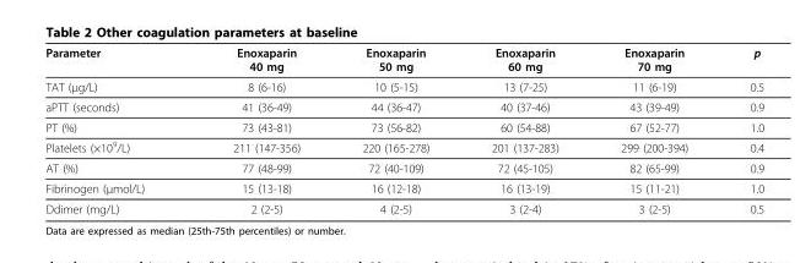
<table><thead><tr><td>Parameter</td><td>Enoxaparin 40 mg</td><td>Enoxaparin 50 mg</td><td>Enoxaparin 60 mg</td><td>Enoxaparin 70 mg</td><td>p</td></tr></thead><tbody><tr><td>TAT (μg/L)</td><td>8 (6-16)</td><td>10 (5-15)</td><td>13 (7-25)</td><td>11 (6-19)</td><td>0.5</td></tr><tr><td>aPTT (seconds)</td><td>41 (36-49)</td><td>44 (36-47)</td><td>40 (37-46)</td><td>43 (39-49)</td><td>0.9</td></tr><tr><td>PT (%)</td><td>73 (43-81)</td><td>73 (56-82)</td><td>60 (54-88)</td><td>67 (52-77)</td><td>1.0</td></tr><tr><td>Platelets (×10<sup>9</sup>/L)</td><td>211 (147-356)</td><td>220 (165-278)</td><td>201 (137-283)</td><td>299 (200-394)</td><td>0.4</td></tr><tr><td>AT (%)</td><td>77 (48-99)</td><td>72 (40-109)</td><td>72 (45-105)</td><td>82 (65-99)</td><td>0.9</td></tr><tr><td>Fibrinogen (μmol/L)</td><td>15 (13-18)</td><td>16 (12-18)</td><td>16 (13-19)</td><td>15 (11-21)</td><td>1.0</td></tr><tr><td>Ddimer (mg/L)</td><td>2 (2-5)</td><td>4 (2-5)</td><td>3 (2-4)</td><td>3 (2-5)</td><td>0.5</td></tr></tbody></table>